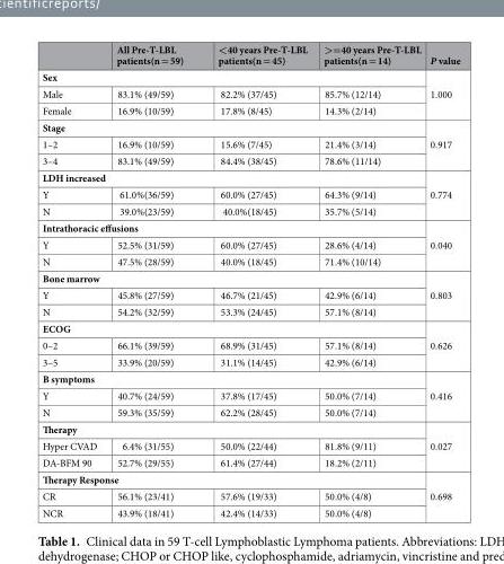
<table><thead><tr><td></td><td>All Pre-T-LBL patients(n = 59)</td><td>&lt;40 years Pre-T-LBL patients(n = 45)</td><td>&gt;=40 years Pre-T-LBL patients(n = 14)</td><td>P value</td></tr></thead><tbody><tr><td colspan="4">Sex</td><td rowspan="3">1.000</td></tr><tr><td>Male</td><td>83.1% (49/59)</td><td>82.2% (37/45)</td><td>85.7% (12/14)</td></tr><tr><td>Female</td><td>16.9% (10/59)</td><td>17.8% (8/45)</td><td>14.3% (2/14)</td></tr><tr><td colspan="4">Stage</td><td rowspan="3">0.917</td></tr><tr><td>1–2</td><td>16.9% (10/59)</td><td>15.6% (7/45)</td><td>21.4% (3/14)</td></tr><tr><td>3–4</td><td>83.1% (49/59)</td><td>84.4% (38/45)</td><td>78.6% (11/14)</td></tr><tr><td colspan="4">LDH increased</td><td rowspan="3">0.774</td></tr><tr><td>Y</td><td>61.0%(36/59)</td><td>60.0% (27/45)</td><td>64.3% (9/14)</td></tr><tr><td>N</td><td>39.0%(23/59)</td><td>40.0%(18/45)</td><td>35.7% (5/14)</td></tr><tr><td colspan="4">Intrathoracic effusions</td><td rowspan="3">0.040</td></tr><tr><td>Y</td><td>52.5% (31/59)</td><td>60.0% (27/45)</td><td>28.6% (4/14)</td></tr><tr><td>N</td><td>47.5% (28/59)</td><td>40.0% (18/45)</td><td>71.4% (10/14)</td></tr><tr><td colspan="4">Bone marrow</td><td rowspan="3">0.803</td></tr><tr><td>Y</td><td>45.8% (27/59)</td><td>46.7% (21/45)</td><td>42.9% (6/14)</td></tr><tr><td>N</td><td>54.2% (32/59)</td><td>53.3% (24/45)</td><td>57.1% (8/14)</td></tr><tr><td colspan="4">ECOG</td><td rowspan="3">0.626</td></tr><tr><td>0–2</td><td>66.1% (39/59)</td><td>68.9% (31/45)</td><td>57.1% (8/14)</td></tr><tr><td>3–5</td><td>33.9% (20/59)</td><td>31.1% (14/45)</td><td>42.9% (6/14)</td></tr><tr><td colspan="4">B symptoms</td><td rowspan="3">0.416</td></tr><tr><td>Y</td><td>40.7% (24/59)</td><td>37.8% (17/45)</td><td>50.0% (7/14)</td></tr><tr><td>N</td><td>59.3% (35/59)</td><td>62.2% (28/45)</td><td>50.0% (7/14)</td></tr><tr><td colspan="4">Therapy</td><td rowspan="3">0.027</td></tr><tr><td>Hyper CVAD</td><td>6.4% (31/55)</td><td>50.0% (22/44)</td><td>81.8% (9/11)</td></tr><tr><td>DA-BFM 90</td><td>52.7% (29/55)</td><td>61.4% (27/44)</td><td>18.2% (2/11)</td></tr><tr><td colspan="4">Therapy Response</td><td rowspan="3">0.698</td></tr><tr><td>CR</td><td>56.1% (23/41)</td><td>57.6% (19/33)</td><td>50.0% (4/8)</td></tr><tr><td>NCR</td><td>43.9% (18/41)</td><td>42.4% (14/33)</td><td>50.0% (4/8)</td></tr></tbody></table>